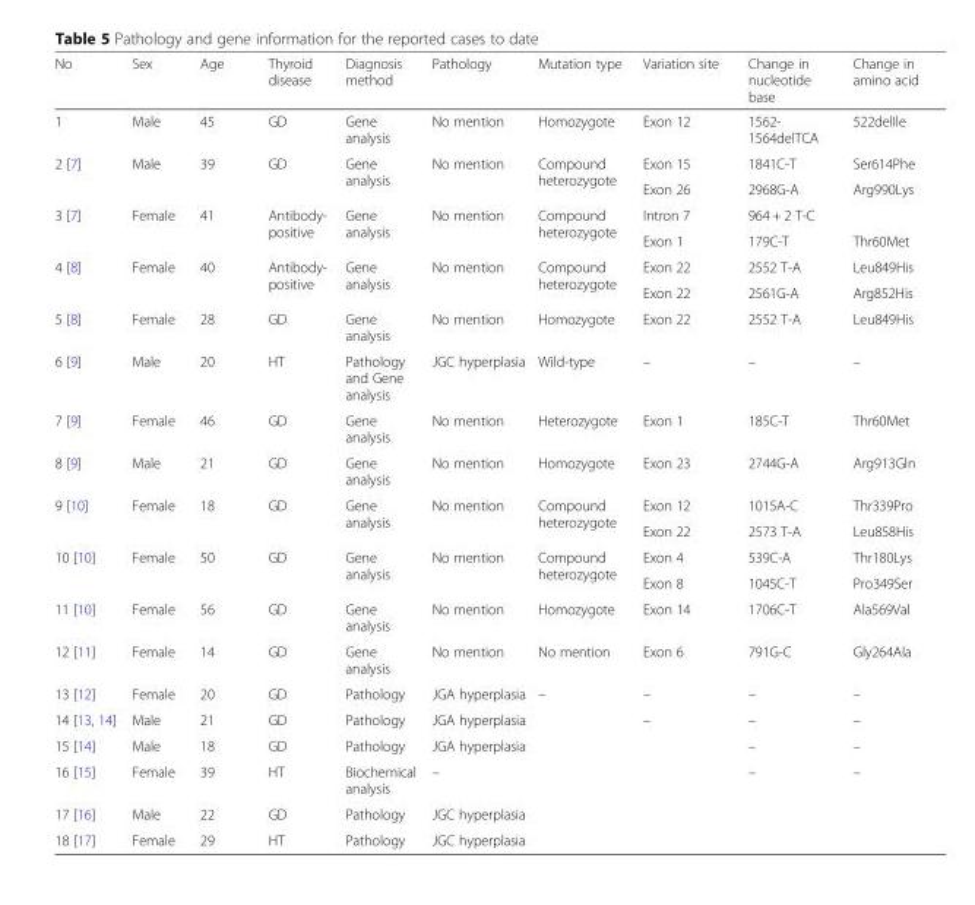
<table><thead><tr><td>No</td><td>Sex</td><td>Age</td><td>Thyroid disease</td><td>Diagnosis method</td><td>Pathology</td><td>Mutation type</td><td>Variation site</td><td>Change in nucleotide base</td><td>Change in amino acid</td></tr></thead><tbody><tr><td>1</td><td>Male</td><td>45</td><td>GD</td><td>Gene analysis</td><td>No mention</td><td>Homozygote</td><td>Exon 12</td><td>1562- 1564delTCA</td><td>522delIle</td></tr><tr><td rowspan="2">2 [7]</td><td rowspan="2">Male</td><td rowspan="2">39</td><td rowspan="2">GD</td><td rowspan="2">Gene analysis</td><td rowspan="2">No mention</td><td rowspan="2">Compound heterozygote</td><td>Exon 15</td><td>1841C-T</td><td>Ser614Phe</td></tr><tr><td>Exon 26</td><td>2968G-A</td><td>Arg990Lys</td></tr><tr><td rowspan="2">3 [7]</td><td rowspan="2">Female</td><td rowspan="2">41</td><td rowspan="2">Antibody- positive</td><td rowspan="2">Gene analysis</td><td rowspan="2">No mention</td><td rowspan="2">Compound heterozygote</td><td>Intron 7</td><td>964 + 2 T-C</td><td></td></tr><tr><td>Exon 1</td><td>179C-T</td><td>Thr60Met</td></tr><tr><td rowspan="2">4 [8]</td><td rowspan="2">Female</td><td rowspan="2">40</td><td rowspan="2">Antibody- positive</td><td rowspan="2">Gene analysis</td><td rowspan="2">No mention</td><td rowspan="2">Compound heterozygote</td><td>Exon 22</td><td>2552 T-A</td><td>Leu849His</td></tr><tr><td>Exon 22</td><td>2561G-A</td><td>Arg852His</td></tr><tr><td>5 [8]</td><td>Female</td><td>28</td><td>GD</td><td>Gene analysis</td><td>No mention</td><td>Homozygote</td><td>Exon 22</td><td>2552 T-A</td><td>Leu849His</td></tr><tr><td>6 [9]</td><td>Male</td><td>20</td><td>HT</td><td>Pathology and Gene analysis</td><td>JGC hyperplasia</td><td>Wild-type</td><td>–</td><td>–</td><td>–</td></tr><tr><td>7 [9]</td><td>Female</td><td>46</td><td>GD</td><td>Gene analysis</td><td>No mention</td><td>Heterozygote</td><td>Exon 1</td><td>185C-T</td><td>Thr60Met</td></tr><tr><td>8 [9]</td><td>Male</td><td>21</td><td>GD</td><td>Gene analysis</td><td>No mention</td><td>Homozygote</td><td>Exon 23</td><td>2744G-A</td><td>Arg913Gln</td></tr><tr><td rowspan="2">9 [10]</td><td rowspan="2">Female</td><td rowspan="2">18</td><td rowspan="2">GD</td><td rowspan="2">Gene analysis</td><td rowspan="2">No mention</td><td rowspan="2">Compound heterozygote</td><td>Exon 12</td><td>1015A-C</td><td>Thr339Pro</td></tr><tr><td>Exon 22</td><td>2573 T-A</td><td>Leu858His</td></tr><tr><td rowspan="2">10 [10]</td><td rowspan="2">Female</td><td rowspan="2">50</td><td rowspan="2">GD</td><td rowspan="2">Gene analysis</td><td rowspan="2">No mention</td><td rowspan="2">Compound heterozygote</td><td>Exon 4</td><td>539C-A</td><td>Thr180Lys</td></tr><tr><td>Exon 8</td><td>1045C-T</td><td>Pro349Ser</td></tr><tr><td>11 [10]</td><td>Female</td><td>56</td><td>GD</td><td>Gene analysis</td><td>No mention</td><td>Homozygote</td><td>Exon 14</td><td>1706C-T</td><td>Ala569Val</td></tr><tr><td>12 [11]</td><td>Female</td><td>14</td><td>GD</td><td>Gene analysis</td><td>No mention</td><td>No mention</td><td>Exon 6</td><td>791G-C</td><td>Gly264Ala</td></tr><tr><td>13 [12]</td><td>Female</td><td>20</td><td>GD</td><td>Pathology</td><td>JGA hyperplasia</td><td>–</td><td>–</td><td>–</td><td>–</td></tr><tr><td>14 [13, 14]</td><td>Male</td><td>21</td><td>GD</td><td>Pathology</td><td>JGA hyperplasia</td><td></td><td>–</td><td>–</td><td>–</td></tr><tr><td>15 [14]</td><td>Male</td><td>18</td><td>GD</td><td>Pathology</td><td>JGA hyperplasia</td><td></td><td></td><td>–</td><td>–</td></tr><tr><td>16 [15]</td><td>Female</td><td>39</td><td>HT</td><td>Biochemical analysis</td><td>–</td><td></td><td></td><td>–</td><td>–</td></tr><tr><td>17 [16]</td><td>Male</td><td>22</td><td>GD</td><td>Pathology</td><td>JGC hyperplasia</td><td></td><td></td><td></td><td></td></tr><tr><td>18 [17]</td><td>Female</td><td>29</td><td>HT</td><td>Pathology</td><td>JGC hyperplasia</td><td></td><td></td><td></td><td></td></tr></tbody></table>